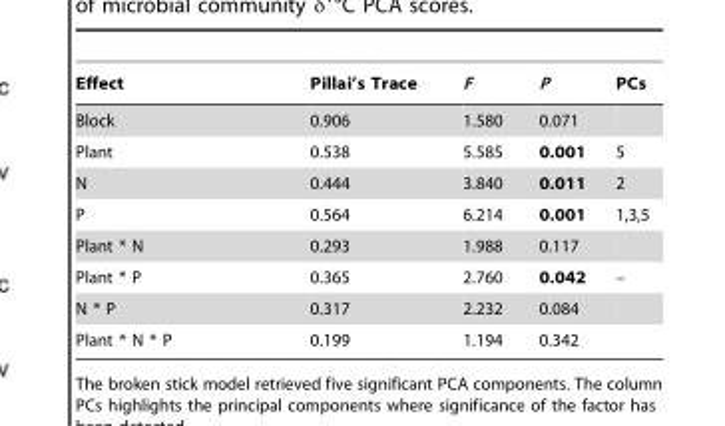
<table><thead><tr><td>Effect</td><td>Pillai’s Trace</td><td>F</td><td>P</td><td>PCs</td></tr></thead><tbody><tr><td>Block</td><td>0.906</td><td>1.580</td><td>0.071</td><td></td></tr><tr><td>Plant</td><td>0.538</td><td>5.585</td><td>0.001</td><td>5</td></tr><tr><td>N</td><td>0.444</td><td>3.840</td><td>0.011</td><td>2</td></tr><tr><td>P</td><td>0.564</td><td>6.214</td><td>0.001</td><td>1,3,5</td></tr><tr><td>Plant * N</td><td>0.293</td><td>1.988</td><td>0.117</td><td></td></tr><tr><td>Plant * P</td><td>0.365</td><td>2.760</td><td>0.042</td><td>–</td></tr><tr><td>N * P</td><td>0.317</td><td>2.232</td><td>0.084</td><td></td></tr><tr><td>Plant * N * P</td><td>0.199</td><td>1.194</td><td>0.342</td><td></td></tr></tbody></table>